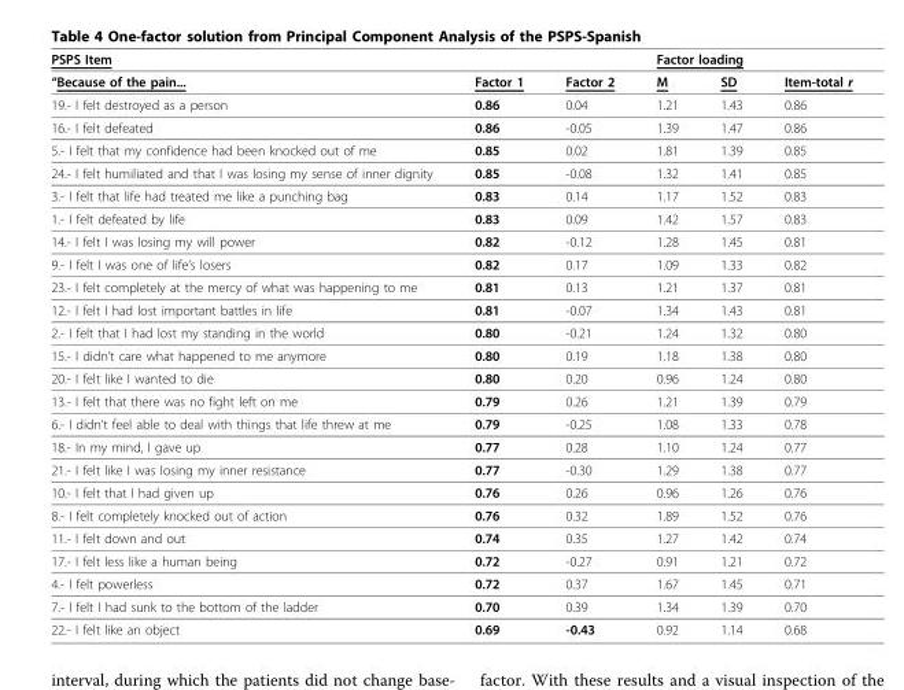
<table><thead><tr><td colspan="3">PSPS Item</td><td colspan="3">Factor loading</td></tr><tr><td>“Because of the pain...</td><td>Factor 1</td><td>Factor 2</td><td>M</td><td>SD</td><td>Item-total r</td></tr></thead><tbody><tr><td>19.- I felt destroyed as a person</td><td>0.86</td><td>0.04</td><td>1.21</td><td>1.43</td><td>0.86</td></tr><tr><td>16.- I felt defeated</td><td>0.86</td><td>-0.05</td><td>1.39</td><td>1.47</td><td>0.86</td></tr><tr><td>5.- I felt that my confidence had been knocked out of me</td><td>0.85</td><td>0.02</td><td>1.81</td><td>1.39</td><td>0.85</td></tr><tr><td>24.- I felt humiliated and that I was losing my sense of inner dignity</td><td>0.85</td><td>-0.08</td><td>1.32</td><td>1.41</td><td>0.85</td></tr><tr><td>3.- I felt that life had treated me like a punching bag</td><td>0.83</td><td>0.14</td><td>1.17</td><td>1.52</td><td>0.83</td></tr><tr><td>1.- I felt defeated by life</td><td>0.83</td><td>0.09</td><td>1.42</td><td>1.57</td><td>0.83</td></tr><tr><td>14.- I felt I was losing my will power</td><td>0.82</td><td>-0.12</td><td>1.28</td><td>1.45</td><td>0.81</td></tr><tr><td>9.- I felt I was one of life’s losers</td><td>0.82</td><td>0.17</td><td>1.09</td><td>1.33</td><td>0.82</td></tr><tr><td>23.- I felt completely at the mercy of what was happening to me</td><td>0.81</td><td>0.13</td><td>1.21</td><td>1.37</td><td>0.81</td></tr><tr><td>12.- I felt I had lost important battles in life</td><td>0.81</td><td>-0.07</td><td>1.34</td><td>1.43</td><td>0.81</td></tr><tr><td>2.- I felt that I had lost my standing in the world</td><td>0.80</td><td>-0.21</td><td>1.24</td><td>1.32</td><td>0.80</td></tr><tr><td>15.- I didn’t care what happened to me anymore</td><td>0.80</td><td>0.19</td><td>1.18</td><td>1.38</td><td>0.80</td></tr><tr><td>20.- I felt like I wanted to die</td><td>0.80</td><td>0.20</td><td>0.96</td><td>1.24</td><td>0.80</td></tr><tr><td>13.- I felt that there was no fight left on me</td><td>0.79</td><td>0.26</td><td>1.21</td><td>1.39</td><td>0.79</td></tr><tr><td>6.- I didn’t feel able to deal with things that life threw at me</td><td>0.79</td><td>-0.25</td><td>1.08</td><td>1.33</td><td>0.78</td></tr><tr><td>18.- In my mind, I gave up</td><td>0.77</td><td>0.28</td><td>1.10</td><td>1.24</td><td>0.77</td></tr><tr><td>21.- I felt like I was losing my inner resistance</td><td>0.77</td><td>-0.30</td><td>1.29</td><td>1.38</td><td>0.77</td></tr><tr><td>10.- I felt that I had given up</td><td>0.76</td><td>0.26</td><td>0.96</td><td>1.26</td><td>0.76</td></tr><tr><td>8.- I felt completely knocked out of action</td><td>0.76</td><td>0.32</td><td>1.89</td><td>1.52</td><td>0.76</td></tr><tr><td>11.- I felt down and out</td><td>0.74</td><td>0.35</td><td>1.27</td><td>1.42</td><td>0.74</td></tr><tr><td>17.- I felt less like a human being</td><td>0.72</td><td>-0.27</td><td>0.91</td><td>1.21</td><td>0.72</td></tr><tr><td>4.- I felt powerless</td><td>0.72</td><td>0.37</td><td>1.67</td><td>1.45</td><td>0.71</td></tr><tr><td>7.- I felt I had sunk to the bottom of the ladder</td><td>0.70</td><td>0.39</td><td>1.34</td><td>1.39</td><td>0.70</td></tr><tr><td>22.- I felt like an object</td><td>0.69</td><td>-0.43</td><td>0.92</td><td>1.14</td><td>0.68</td></tr></tbody></table>